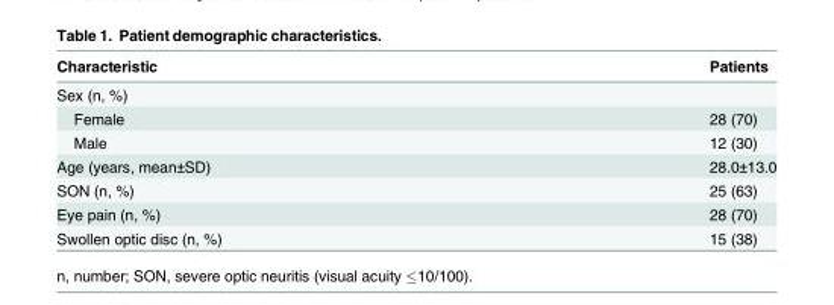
<table><thead><tr><td>Characteristic</td><td>Patients</td></tr></thead><tbody><tr><td colspan="2">Sex (n, %)</td></tr><tr><td>Female</td><td>28 (70)</td></tr><tr><td>Male</td><td>12 (30)</td></tr><tr><td>Age (years, mean±SD)</td><td>28.0±13.0</td></tr><tr><td>SON (n, %)</td><td>25 (63)</td></tr><tr><td>Eye pain (n, %)</td><td>28 (70)</td></tr><tr><td>Swollen optic disc (n, %)</td><td>15 (38)</td></tr></tbody></table>